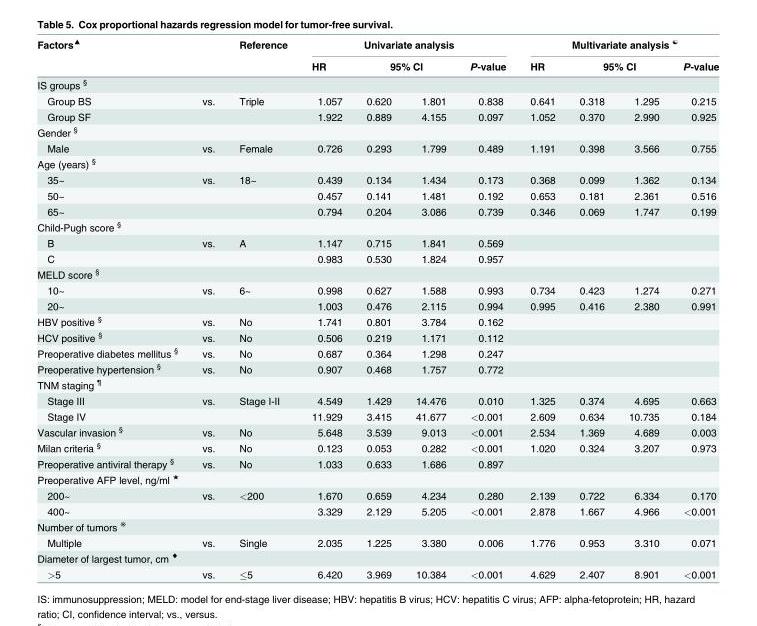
<table><thead><tr><td rowspan="2">Factors▲</td><td rowspan="2"></td><td rowspan="2">Reference</td><td colspan="4">Univariate analysis</td><td colspan="4">Multivariate analysis ☯</td></tr><tr><td>HR</td><td colspan="2">95% CI</td><td>P-value</td><td>HR</td><td colspan="2">95% CI</td><td>P-value</td></tr><tr><td colspan="11">IS groups §</td></tr><tr><td>Group BS</td><td>vs.</td><td>Triple</td><td>1.057</td><td>0.620</td><td>1.801</td><td>0.838</td><td>0.641</td><td>0.318</td><td>1.295</td><td>0.215</td></tr></thead><tbody><tr><td>Group SF</td><td></td><td></td><td>1.922</td><td>0.889</td><td>4.155</td><td>0.097</td><td>1.052</td><td>0.370</td><td>2.990</td><td>0.925</td></tr><tr><td colspan="11">Gender §</td></tr><tr><td>Male</td><td>vs.</td><td>Female</td><td>0.726</td><td>0.293</td><td>1.799</td><td>0.489</td><td>1.191</td><td>0.398</td><td>3.566</td><td>0.755</td></tr><tr><td colspan="11">Age (years) §</td></tr><tr><td>35~</td><td>vs.</td><td>18~</td><td>0.439</td><td>0.134</td><td>1.434</td><td>0.173</td><td>0.368</td><td>0.099</td><td>1.362</td><td>0.134</td></tr><tr><td>50~</td><td></td><td></td><td>0.457</td><td>0.141</td><td>1.481</td><td>0.192</td><td>0.653</td><td>0.181</td><td>2.361</td><td>0.516</td></tr><tr><td>65~</td><td></td><td></td><td>0.794</td><td>0.204</td><td>3.086</td><td>0.739</td><td>0.346</td><td>0.069</td><td>1.747</td><td>0.199</td></tr><tr><td colspan="11">Child-Pugh score §</td></tr><tr><td>B</td><td>vs.</td><td>A</td><td>1.147</td><td>0.715</td><td>1.841</td><td>0.569</td><td></td><td></td><td></td><td></td></tr><tr><td>C</td><td></td><td></td><td>0.983</td><td>0.530</td><td>1.824</td><td>0.957</td><td></td><td></td><td></td><td></td></tr><tr><td colspan="11">MELD score §</td></tr><tr><td>10~</td><td>vs.</td><td>6~</td><td>0.998</td><td>0.627</td><td>1.588</td><td>0.993</td><td>0.734</td><td>0.423</td><td>1.274</td><td>0.271</td></tr><tr><td>20~</td><td></td><td></td><td>1.003</td><td>0.476</td><td>2.115</td><td>0.994</td><td>0.995</td><td>0.416</td><td>2.380</td><td>0.991</td></tr><tr><td>HBV positive §</td><td>vs.</td><td>No</td><td>1.741</td><td>0.801</td><td>3.784</td><td>0.162</td><td></td><td></td><td></td><td></td></tr><tr><td>HCV positive §</td><td>vs.</td><td>No</td><td>0.506</td><td>0.219</td><td>1.171</td><td>0.112</td><td></td><td></td><td></td><td></td></tr><tr><td>Preoperative diabetes mellitus §</td><td>vs.</td><td>No</td><td>0.687</td><td>0.364</td><td>1.298</td><td>0.247</td><td></td><td></td><td></td><td></td></tr><tr><td>Preoperative hypertension §</td><td>vs.</td><td>No</td><td>0.907</td><td>0.468</td><td>1.757</td><td>0.772</td><td></td><td></td><td></td><td></td></tr><tr><td colspan="11">TNM staging ¶</td></tr><tr><td>Stage III</td><td>vs.</td><td>Stage I-II</td><td>4.549</td><td>1.429</td><td>14.476</td><td>0.010</td><td>1.325</td><td>0.374</td><td>4.695</td><td>0.663</td></tr><tr><td>Stage IV</td><td></td><td></td><td>11.929</td><td>3.415</td><td>41.677</td><td>&lt;0.001</td><td>2.609</td><td>0.634</td><td>10.735</td><td>0.184</td></tr><tr><td>Vascular invasion §</td><td>vs.</td><td>No</td><td>5.648</td><td>3.539</td><td>9.013</td><td>&lt;0.001</td><td>2.534</td><td>1.369</td><td>4.689</td><td>0.003</td></tr><tr><td>Milan criteria §</td><td>vs.</td><td>No</td><td>0.123</td><td>0.053</td><td>0.282</td><td>&lt;0.001</td><td>1.020</td><td>0.324</td><td>3.207</td><td>0.973</td></tr><tr><td>Preoperative antiviral therapy §</td><td>vs.</td><td>No</td><td>1.033</td><td>0.633</td><td>1.686</td><td>0.897</td><td></td><td></td><td></td><td></td></tr><tr><td colspan="11">Preoperative AFP level, ng/ml ★</td></tr><tr><td>200~</td><td>vs.</td><td>&lt;200</td><td>1.670</td><td>0.659</td><td>4.234</td><td>0.280</td><td>2.139</td><td>0.722</td><td>6.334</td><td>0.170</td></tr><tr><td>400~</td><td></td><td></td><td>3.329</td><td>2.129</td><td>5.205</td><td>&lt;0.001</td><td>2.878</td><td>1.667</td><td>4.966</td><td>&lt;0.001</td></tr><tr><td colspan="11">Number of tumors ※</td></tr><tr><td>Multiple</td><td>vs.</td><td>Single</td><td>2.035</td><td>1.225</td><td>3.380</td><td>0.006</td><td>1.776</td><td>0.953</td><td>3.310</td><td>0.071</td></tr><tr><td colspan="11">Diameter of largest tumor, cm ♦</td></tr><tr><td>&gt;5</td><td>vs.</td><td>≤5</td><td>6.420</td><td>3.969</td><td>10.384</td><td>&lt;0.001</td><td>4.629</td><td>2.407</td><td>8.901</td><td>&lt;0.001</td></tr></tbody></table>